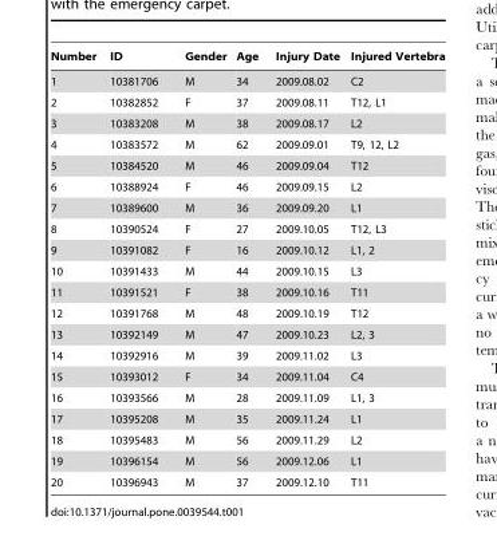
<table><thead><tr><td>Number</td><td>ID</td><td>Gender</td><td>Age</td><td>Injury Date</td><td>Injured Vertebra</td></tr></thead><tbody><tr><td>1</td><td>10381706</td><td>M</td><td>34</td><td>2009.08.02</td><td>C2</td></tr><tr><td>2</td><td>10382852</td><td>F</td><td>37</td><td>2009.08.11</td><td>T12, L1</td></tr><tr><td>3</td><td>10383208</td><td>M</td><td>38</td><td>2009.08.17</td><td>L2</td></tr><tr><td>4</td><td>10383572</td><td>M</td><td>62</td><td>2009.09.01</td><td>T9, 12, L2</td></tr><tr><td>5</td><td>10384520</td><td>M</td><td>46</td><td>2009.09.04</td><td>T12</td></tr><tr><td>6</td><td>10388924</td><td>F</td><td>46</td><td>2009.09.15</td><td>L2</td></tr><tr><td>7</td><td>10389600</td><td>M</td><td>36</td><td>2009.09.20</td><td>L1</td></tr><tr><td>8</td><td>10390524</td><td>F</td><td>27</td><td>2009.10.05</td><td>T12, L3</td></tr><tr><td>9</td><td>10391082</td><td>F</td><td>16</td><td>2009.10.12</td><td>L1, 2</td></tr><tr><td>10</td><td>10391433</td><td>M</td><td>44</td><td>2009.10.15</td><td>L3</td></tr><tr><td>11</td><td>10391521</td><td>F</td><td>38</td><td>2009.10.16</td><td>T11</td></tr><tr><td>12</td><td>10391768</td><td>M</td><td>48</td><td>2009.10.19</td><td>T12</td></tr><tr><td>13</td><td>10392149</td><td>M</td><td>47</td><td>2009.10.23</td><td>L2, 3</td></tr><tr><td>14</td><td>10392916</td><td>M</td><td>39</td><td>2009.11.02</td><td>L3</td></tr><tr><td>15</td><td>10393012</td><td>F</td><td>34</td><td>2009.11.04</td><td>C4</td></tr><tr><td>16</td><td>10393566</td><td>M</td><td>28</td><td>2009.11.09</td><td>L1, 3</td></tr><tr><td>17</td><td>10395208</td><td>M</td><td>35</td><td>2009.11.24</td><td>L1</td></tr><tr><td>18</td><td>10395483</td><td>M</td><td>56</td><td>2009.11.29</td><td>L2</td></tr><tr><td>19</td><td>10396154</td><td>M</td><td>56</td><td>2009.12.06</td><td>L1</td></tr><tr><td>20</td><td>10396943</td><td>M</td><td>37</td><td>2009.12.10</td><td>T11</td></tr></tbody></table>